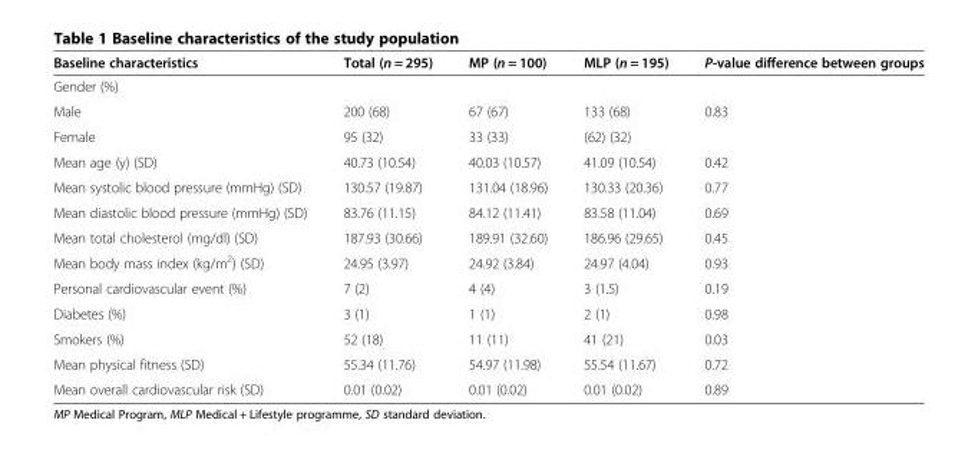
<table><thead><tr><td>Baseline characteristics</td><td>Total (n = 295)</td><td>MP (n = 100)</td><td>MLP (n = 195)</td><td>P-value difference between groups</td></tr></thead><tbody><tr><td colspan="5">Gender (%)</td></tr><tr><td>Male</td><td>200 (68)</td><td>67 (67)</td><td>133 (68)</td><td rowspan="2">0.83</td></tr><tr><td>Female</td><td>95 (32)</td><td>33 (33)</td><td>(62) (32)</td></tr><tr><td>Mean age (y) (SD)</td><td>40.73 (10.54)</td><td>40.03 (10.57)</td><td>41.09 (10.54)</td><td>0.42</td></tr><tr><td>Mean systolic blood pressure (mmHg) (SD)</td><td>130.57 (19.87)</td><td>131.04 (18.96)</td><td>130.33 (20.36)</td><td>0.77</td></tr><tr><td>Mean diastolic blood pressure (mmHg) (SD)</td><td>83.76 (11.15)</td><td>84.12 (11.41)</td><td>83.58 (11.04)</td><td>0.69</td></tr><tr><td>Mean total cholesterol (mg/dl) (SD)</td><td>187.93 (30.66)</td><td>189.91 (32.60)</td><td>186.96 (29.65)</td><td>0.45</td></tr><tr><td>Mean body mass index (kg/m<sup>2</sup>) (SD)</td><td>24.95 (3.97)</td><td>24.92 (3.84)</td><td>24.97 (4.04)</td><td>0.93</td></tr><tr><td>Personal cardiovascular event (%)</td><td>7 (2)</td><td>4 (4)</td><td>3 (1.5)</td><td>0.19</td></tr><tr><td>Diabetes (%)</td><td>3 (1)</td><td>1 (1)</td><td>2 (1)</td><td>0.98</td></tr><tr><td>Smokers (%)</td><td>52 (18)</td><td>11 (11)</td><td>41 (21)</td><td>0.03</td></tr><tr><td>Mean physical fitness (SD)</td><td>55.34 (11.76)</td><td>54.97 (11.98)</td><td>55.54 (11.67)</td><td>0.72</td></tr><tr><td>Mean overall cardiovascular risk (SD)</td><td>0.01 (0.02)</td><td>0.01 (0.02)</td><td>0.01 (0.02)</td><td>0.89</td></tr></tbody></table>